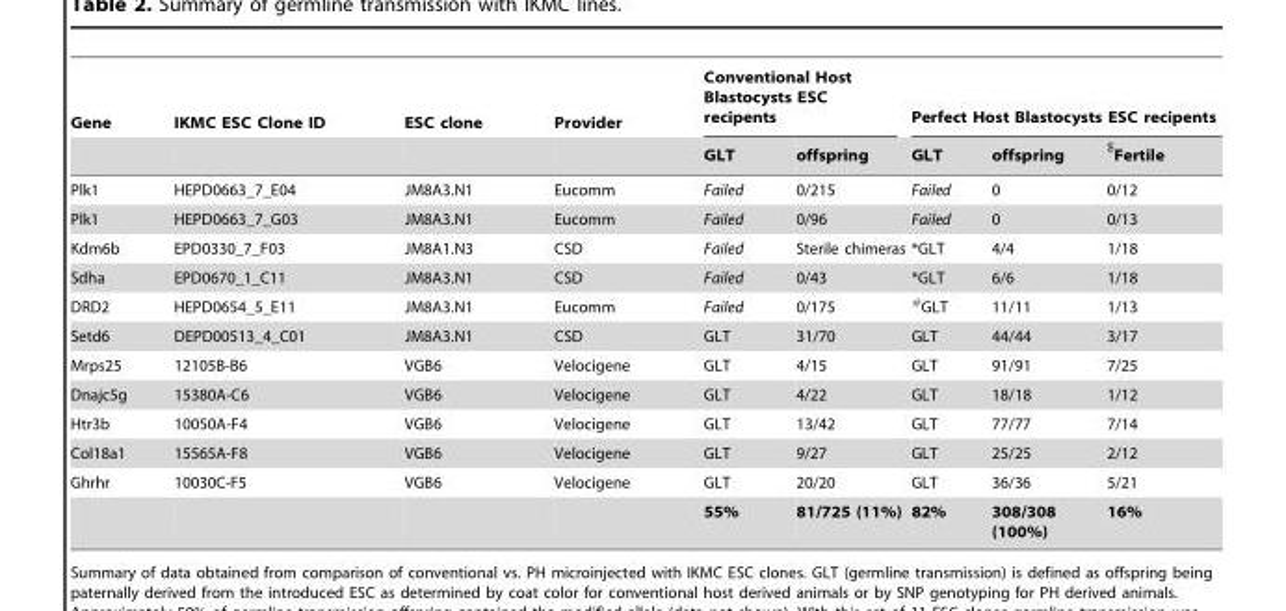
<table><thead><tr><td rowspan="2">Gene</td><td rowspan="2">IKMC ESC Clone ID</td><td rowspan="2">ESC clone</td><td rowspan="2">Provider</td><td colspan="2">Conventional Host Blastocysts ESC recipents</td><td colspan="3">Perfect Host Blastocysts ESC recipents</td></tr><tr><td>GLT</td><td>offspring</td><td>GLT</td><td>offspring</td><td>$Fertile</td></tr></thead><tbody><tr><td>Plk1</td><td>HEPD0663_7_E04</td><td>JM8A3.N1</td><td>Eucomm</td><td>Failed</td><td>0/215</td><td>Failed</td><td>0</td><td>0/12</td></tr><tr><td>Plk1</td><td>HEPD0663_7_G03</td><td>JM8A3.N1</td><td>Eucomm</td><td>Failed</td><td>0/96</td><td>Failed</td><td>0</td><td>0/13</td></tr><tr><td>Kdm6b</td><td>EPD0330_7_F03</td><td>JM8A1.N3</td><td>CSD</td><td>Failed</td><td>Sterile chimeras</td><td>*GLT</td><td>4/4</td><td>1/18</td></tr><tr><td>Sdha</td><td>EPD0670_1_C11</td><td>JM8A3.N1</td><td>CSD</td><td>Failed</td><td>0/43</td><td>*GLT</td><td>6/6</td><td>1/18</td></tr><tr><td>DRD2</td><td>HEPD0654_5_E11</td><td>JM8A3.N1</td><td>Eucomm</td><td>Failed</td><td>0/175</td><td>#GLT</td><td>11/11</td><td>1/13</td></tr><tr><td>Setd6</td><td>DEPD00513_4_C01</td><td>JM8A3.N1</td><td>CSD</td><td>GLT</td><td>31/70</td><td>GLT</td><td>44/44</td><td>3/17</td></tr><tr><td>Mrps25</td><td>12105B-B6</td><td>VGB6</td><td>Velocigene</td><td>GLT</td><td>4/15</td><td>GLT</td><td>91/91</td><td>7/25</td></tr><tr><td>Dnajc5g</td><td>15380A-C6</td><td>VGB6</td><td>Velocigene</td><td>GLT</td><td>4/22</td><td>GLT</td><td>18/18</td><td>1/12</td></tr><tr><td>Htr3b</td><td>10050A-F4</td><td>VGB6</td><td>Velocigene</td><td>GLT</td><td>13/42</td><td>GLT</td><td>77/77</td><td>7/14</td></tr><tr><td>Col18a1</td><td>15565A-F8</td><td>VGB6</td><td>Velocigene</td><td>GLT</td><td>9/27</td><td>GLT</td><td>25/25</td><td>2/12</td></tr><tr><td rowspan="2">Ghrhr</td><td>10030C-F5</td><td>VGB6</td><td>Velocigene</td><td>GLT</td><td>20/20</td><td>GLT</td><td>36/36</td><td>5/21</td></tr><tr><td></td><td></td><td></td><td>55%</td><td>81/725 (11%)</td><td>82%</td><td>308/308 (100%)</td><td>16%</td></tr></tbody></table>